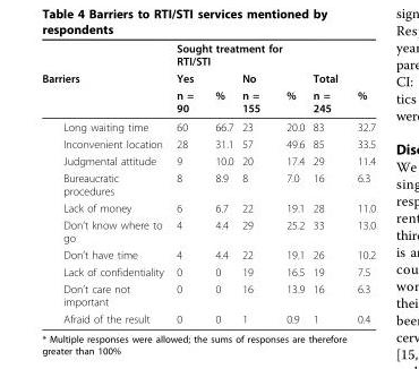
<table><thead><tr><td rowspan="3">Barriers</td><td colspan="4">Sought treatment for RTI/STI</td><td rowspan="3">Total n = 245</td><td rowspan="3">%</td></tr><tr><td rowspan="2">Yes n = 90</td><td rowspan="2">%</td><td rowspan="2">No n = 155</td><td rowspan="2">%</td></tr><tr></tr></thead><tbody><tr><td>Long waiting time</td><td>60</td><td>66.7</td><td>23</td><td>20.0</td><td>83</td><td>32.7</td></tr><tr><td>Inconvenient location</td><td>28</td><td>31.1</td><td>57</td><td>49.6</td><td>85</td><td>33.5</td></tr><tr><td>Judgmental attitude</td><td>9</td><td>10.0</td><td>20</td><td>17.4</td><td>29</td><td>11.4</td></tr><tr><td>Bureaucratic procedures</td><td>8</td><td>8.9</td><td>8</td><td>7.0</td><td>16</td><td>6.3</td></tr><tr><td>Lack of money</td><td>6</td><td>6.7</td><td>22</td><td>19.1</td><td>28</td><td>11.0</td></tr><tr><td>Don’t know where to go</td><td>4</td><td>4.4</td><td>29</td><td>25.2</td><td>33</td><td>13.0</td></tr><tr><td>Don’t have time</td><td>4</td><td>4.4</td><td>22</td><td>19.1</td><td>26</td><td>10.2</td></tr><tr><td>Lack of confidentiality</td><td>0</td><td>0</td><td>19</td><td>16.5</td><td>19</td><td>7.5</td></tr><tr><td>Don’t care not important</td><td>0</td><td>0</td><td>16</td><td>13.9</td><td>16</td><td>6.3</td></tr><tr><td>Afraid of the result</td><td>0</td><td>0</td><td>1</td><td>0.9</td><td>1</td><td>0.4</td></tr></tbody></table>